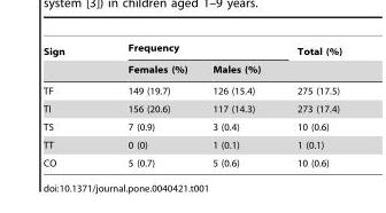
<table><thead><tr><td rowspan="2">Sign</td><td colspan="2">Frequency</td><td rowspan="2">Total (%)</td></tr><tr><td>Females (%)</td><td>Males (%)</td></tr></thead><tbody><tr><td>TF</td><td>149 (19.7)</td><td>126 (15.4)</td><td>275 (17.5)</td></tr><tr><td>TI</td><td>156 (20.6)</td><td>117 (14.3)</td><td>273 (17.4)</td></tr><tr><td>TS</td><td>7 (0.9)</td><td>3 (0.4)</td><td>10 (0.6)</td></tr><tr><td>TT</td><td>0 (0)</td><td>1 (0.1)</td><td>1 (0.1)</td></tr><tr><td>CO</td><td>5 (0.7)</td><td>5 (0.6)</td><td>10 (0.6)</td></tr></tbody></table>